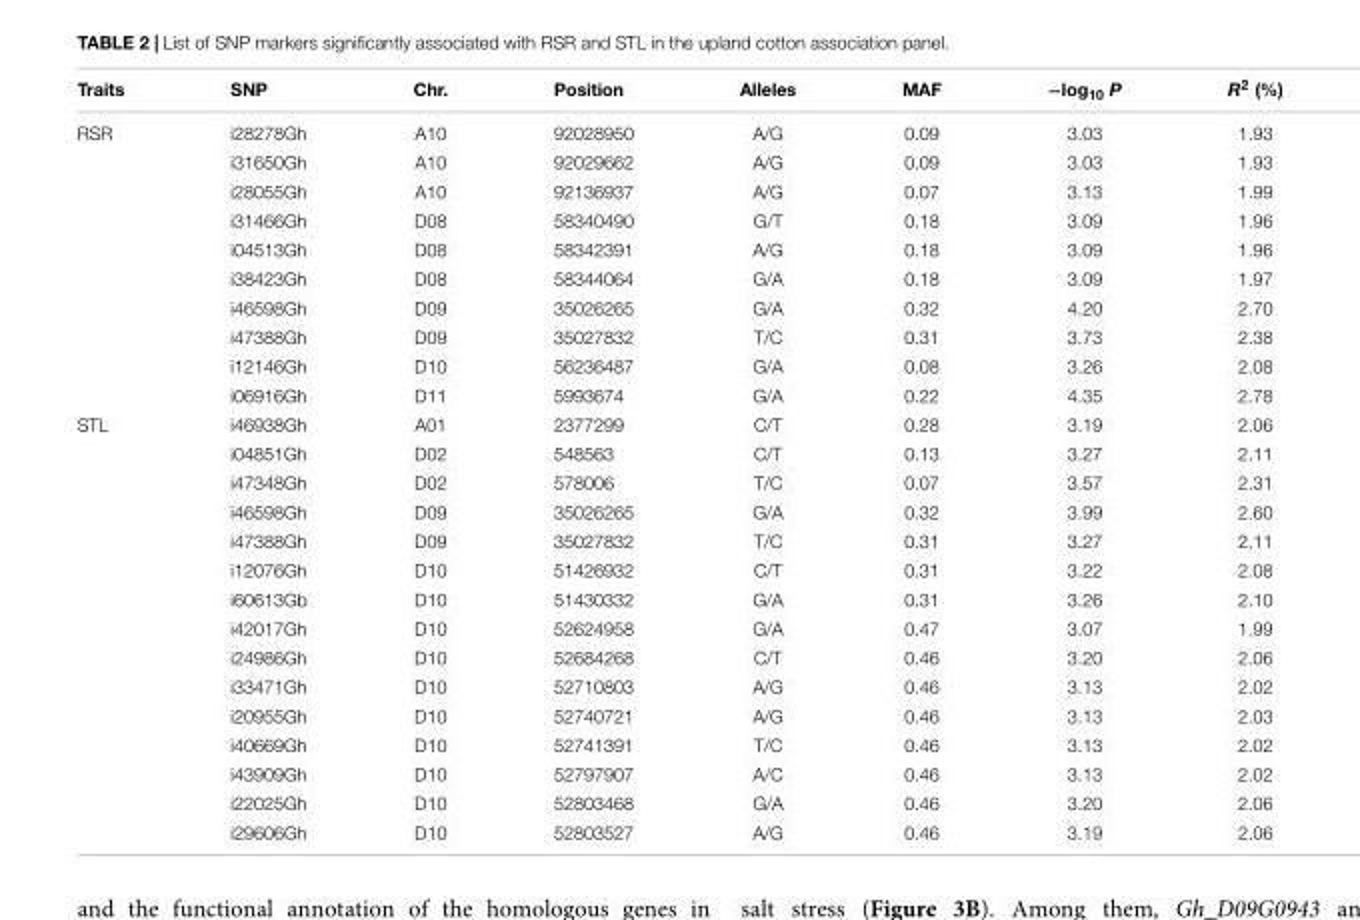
<table><thead><tr><td>Traits</td><td>SNP</td><td>Chr.</td><td>Position</td><td>Alleles</td><td>MAF</td><td>−log<sub>10</sub> P</td><td>R<sup>2</sup> (%)</td></tr></thead><tbody><tr><td rowspan="10">RSR</td><td>i28278Gh</td><td>A10</td><td>92028950</td><td>A/G</td><td>0.09</td><td>3.03</td><td>1.93</td></tr><tr><td>i31650Gh</td><td>A10</td><td>92029662</td><td>A/G</td><td>0.09</td><td>3.03</td><td>1.93</td></tr><tr><td>i28055Gh</td><td>A10</td><td>92136937</td><td>A/G</td><td>0.07</td><td>3.13</td><td>1.99</td></tr><tr><td>i31466Gh</td><td>D08</td><td>58340490</td><td>G/T</td><td>0.18</td><td>3.09</td><td>1.96</td></tr><tr><td>i04513Gh</td><td>D08</td><td>58342391</td><td>A/G</td><td>0.18</td><td>3.09</td><td>1.96</td></tr><tr><td>i38423Gh</td><td>D08</td><td>58344064</td><td>G/A</td><td>0.18</td><td>3.09</td><td>1.97</td></tr><tr><td>i46598Gh</td><td>D09</td><td>35026265</td><td>G/A</td><td>0.32</td><td>4.20</td><td>2.70</td></tr><tr><td>i47388Gh</td><td>D09</td><td>35027832</td><td>T/C</td><td>0.31</td><td>3.73</td><td>2.38</td></tr><tr><td>i12146Gh</td><td>D10</td><td>56236487</td><td>G/A</td><td>0.08</td><td>3.26</td><td>2.08</td></tr><tr><td>i06916Gh</td><td>D11</td><td>5993674</td><td>G/A</td><td>0.22</td><td>4.35</td><td>2.78</td></tr><tr><td rowspan="15">STL</td><td>i46938Gh</td><td>A01</td><td>2377299</td><td>C/T</td><td>0.28</td><td>3.19</td><td>2.06</td></tr><tr><td>i04851Gh</td><td>D02</td><td>548563</td><td>C/T</td><td>0.13</td><td>3.27</td><td>2.11</td></tr><tr><td>i47348Gh</td><td>D02</td><td>578006</td><td>T/C</td><td>0.07</td><td>3.57</td><td>2.31</td></tr><tr><td>i46598Gh</td><td>D09</td><td>35026265</td><td>G/A</td><td>0.32</td><td>3.99</td><td>2.60</td></tr><tr><td>i47388Gh</td><td>D09</td><td>35027832</td><td>T/C</td><td>0.31</td><td>3.27</td><td>2.11</td></tr><tr><td>i12076Gh</td><td>D10</td><td>51426932</td><td>C/T</td><td>0.31</td><td>3.22</td><td>2.08</td></tr><tr><td>i60613Gb</td><td>D10</td><td>51430332</td><td>G/A</td><td>0.31</td><td>3.26</td><td>2.10</td></tr><tr><td>i42017Gh</td><td>D10</td><td>52624958</td><td>G/A</td><td>0.47</td><td>3.07</td><td>1.99</td></tr><tr><td>i24986Gh</td><td>D10</td><td>52684268</td><td>C/T</td><td>0.46</td><td>3.20</td><td>2.06</td></tr><tr><td>i33471Gh</td><td>D10</td><td>52710803</td><td>A/G</td><td>0.46</td><td>3.13</td><td>2.02</td></tr><tr><td>i20955Gh</td><td>D10</td><td>52740721</td><td>A/G</td><td>0.46</td><td>3.13</td><td>2.03</td></tr><tr><td>i40669Gh</td><td>D10</td><td>52741391</td><td>T/C</td><td>0.46</td><td>3.13</td><td>2.02</td></tr><tr><td>i43909Gh</td><td>D10</td><td>52797907</td><td>A/C</td><td>0.46</td><td>3.13</td><td>2.02</td></tr><tr><td>i22025Gh</td><td>D10</td><td>52803468</td><td>G/A</td><td>0.46</td><td>3.20</td><td>2.06</td></tr><tr><td>i29606Gh</td><td>D10</td><td>52803527</td><td>A/G</td><td>0.46</td><td>3.19</td><td>2.06</td></tr></tbody></table>